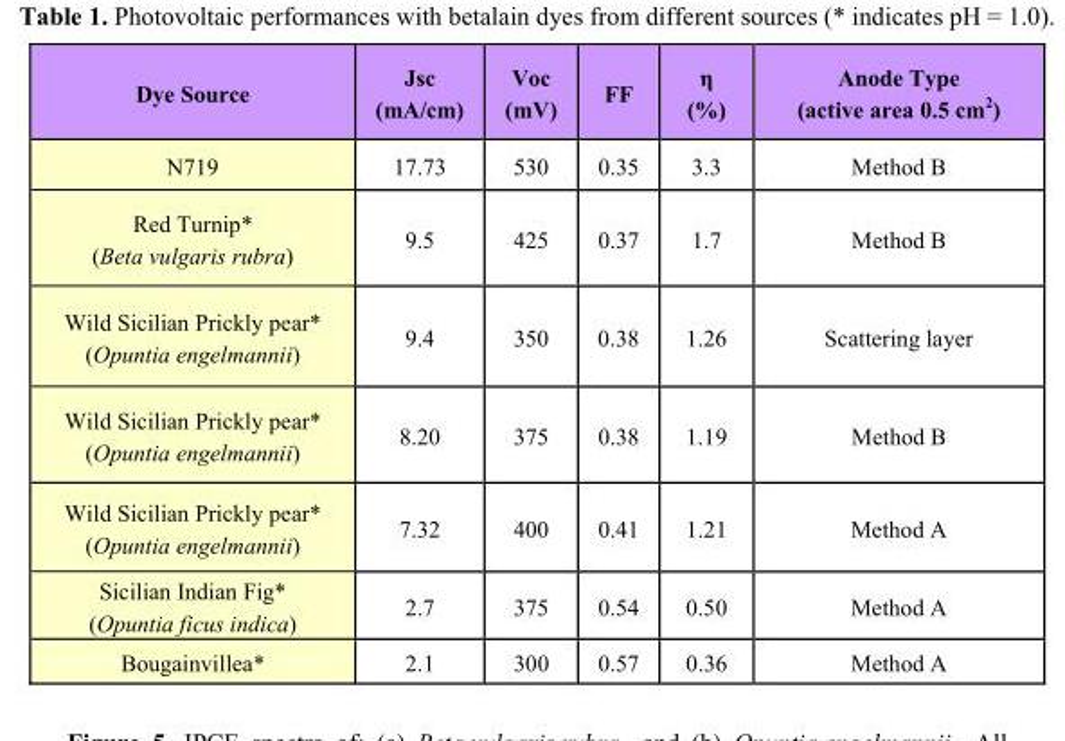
<table><thead><tr><td>Dye Source</td><td>Jsc (mA/cm)</td><td>Voc (mV)</td><td>FF</td><td>η (%)</td><td>Anode Type (active area 0.5 cm<sup>2</sup>)</td></tr></thead><tbody><tr><td>N719</td><td>17.73</td><td>530</td><td>0.35</td><td>3.3</td><td>Method B</td></tr><tr><td>Red Turnip* (Beta vulgaris rubra)</td><td>9.5</td><td>425</td><td>0.37</td><td>1.7</td><td>Method B</td></tr><tr><td>Wild Sicilian Prickly pear* (Opuntia engelmannii)</td><td>9.4</td><td>350</td><td>0.38</td><td>1.26</td><td>Scattering layer</td></tr><tr><td>Wild Sicilian Prickly pear* (Opuntia engelmannii)</td><td>8.20</td><td>375</td><td>0.38</td><td>1.19</td><td>Method B</td></tr><tr><td>Wild Sicilian Prickly pear* (Opuntia engelmannii)</td><td>7.32</td><td>400</td><td>0.41</td><td>1.21</td><td>Method A</td></tr><tr><td>Sicilian Indian Fig* (Opuntia ficus indica)</td><td>2.7</td><td>375</td><td>0.54</td><td>0.50</td><td>Method A</td></tr><tr><td>Bougainvillea*</td><td>2.1</td><td>300</td><td>0.57</td><td>0.36</td><td>Method A</td></tr></tbody></table>